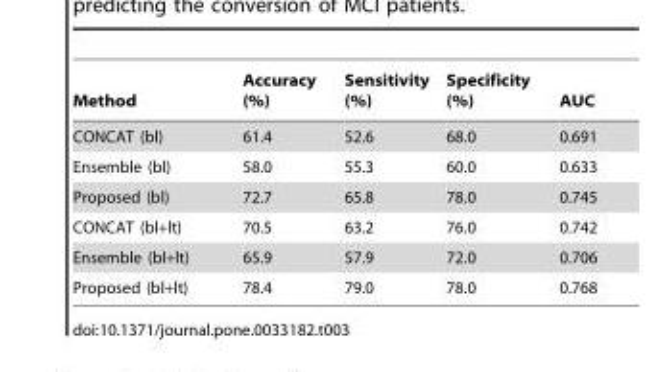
<table><thead><tr><td>Method</td><td>Accuracy (%)</td><td>Sensitivity (%)</td><td>Specificity (%)</td><td>AUC</td></tr></thead><tbody><tr><td>CONCAT (bl)</td><td>61.4</td><td>52.6</td><td>68.0</td><td>0.691</td></tr><tr><td>Ensemble (bl)</td><td>58.0</td><td>55.3</td><td>60.0</td><td>0.633</td></tr><tr><td>Proposed (bl)</td><td>72.7</td><td>65.8</td><td>78.0</td><td>0.745</td></tr><tr><td>CONCAT (bl+lt)</td><td>70.5</td><td>63.2</td><td>76.0</td><td>0.742</td></tr><tr><td>Ensemble (bl+lt)</td><td>65.9</td><td>57.9</td><td>72.0</td><td>0.706</td></tr><tr><td>Proposed (bl+lt)</td><td>78.4</td><td>79.0</td><td>78.0</td><td>0.768</td></tr></tbody></table>